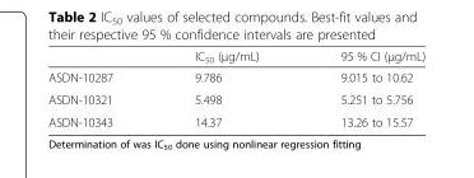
<table><thead><tr><td></td><td>IC<sub>50</sub> (μg/mL)</td><td>95 % CI (μg/mL)</td></tr></thead><tbody><tr><td>ASDN-10287</td><td>9.786</td><td>9.015 to 10.62</td></tr><tr><td>ASDN-10321</td><td>5.498</td><td>5.251 to 5.756</td></tr><tr><td>ASDN-10343</td><td>14.37</td><td>13.26 to 15.57</td></tr></tbody></table>